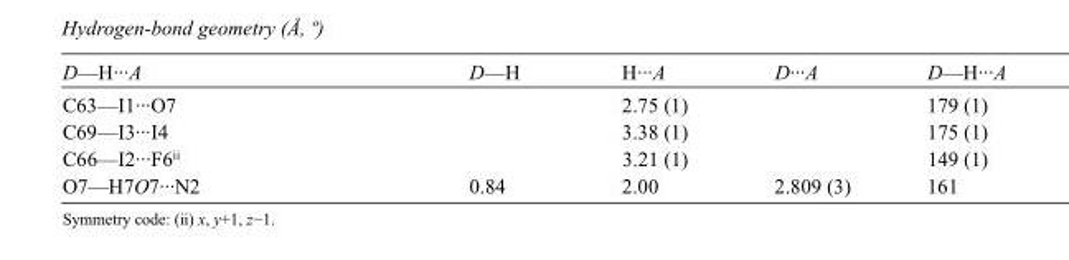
<table><tbody><tr><td>D—H···A</td><td>D—H</td><td>H···A</td><td>D···A</td><td>D—H···A</td></tr><tr><td>C63—I1···O7</td><td></td><td>2.75 (1)</td><td></td><td>179 (1)</td></tr><tr><td>C69—I3···I4</td><td></td><td>3.38 (1)</td><td></td><td>175 (1)</td></tr><tr><td>C66—I2···F6<sup>ii</sup></td><td></td><td>3.21 (1)</td><td></td><td>149 (1)</td></tr><tr><td>O7—H7O7···N2</td><td>0.84</td><td>2.00</td><td>2.809 (3)</td><td>161</td></tr></tbody></table>